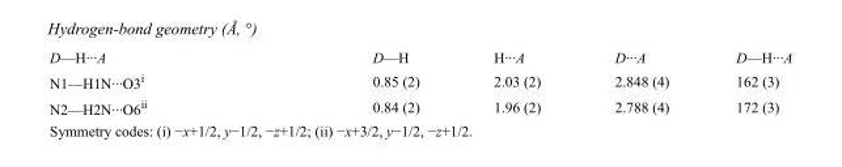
<table><tbody><tr><td>D—H···A</td><td>D—H</td><td>H···A</td><td>D···A</td><td>D—H···A</td></tr><tr><td>N1—H1N···O3<sup>i</sup></td><td>0.85 (2)</td><td>2.03 (2)</td><td>2.848 (4)</td><td>162 (3)</td></tr><tr><td>N2—H2N···O6<sup>ii</sup></td><td>0.84 (2)</td><td>1.96 (2)</td><td>2.788 (4)</td><td>172 (3)</td></tr></tbody></table>